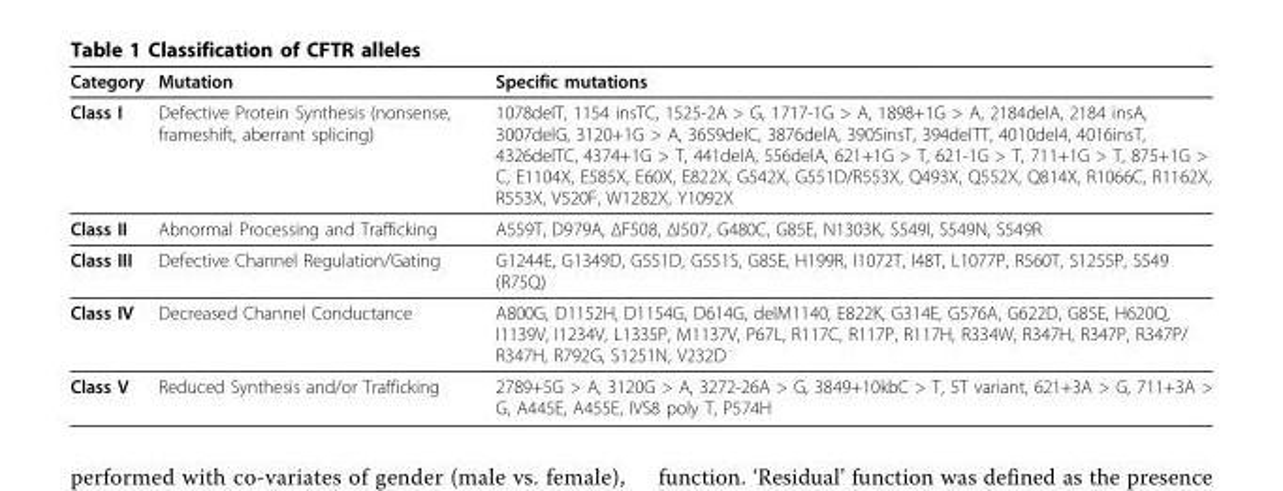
<table><thead><tr><td>Category</td><td>Mutation</td><td>Specific mutations</td></tr></thead><tbody><tr><td>Class I</td><td>Defective Protein Synthesis (nonsense, frameshift, aberrant splicing)</td><td>1078delT, 1154 insTC, 1525-2A &gt; G, 1717-1G &gt; A, 1898+1G &gt; A, 2184delA, 2184 insA, 3007delG, 3120+1G &gt; A, 3659delC, 3876delA, 3905insT, 394delTT, 4010del4, 4016insT, 4326delTC, 4374+1G &gt; T, 441delA, 556delA, 621+1G &gt; T, 621-1G &gt; T, 711+1G &gt; T, 875+1G &gt; C, E1104X, E585X, E60X, E822X, G542X, G551D/R553X, Q493X, Q552X, Q814X, R1066C, R1162X, R553X, V520F, W1282X, Y1092X</td></tr><tr><td>Class II</td><td>Abnormal Processing and Trafficking</td><td>A559T, D979A, ΔF508, ΔI507, G480C, G85E, N1303K, S549I, S549N, S549R</td></tr><tr><td>Class III</td><td>Defective Channel Regulation/Gating</td><td>G1244E, G1349D, G551D, G551S, G85E, H199R, I1072T, I48T, L1077P, R560T, S1255P, S549 (R75Q)</td></tr><tr><td>Class IV</td><td>Decreased Channel Conductance</td><td>A800G, D1152H, D1154G, D614G, delM1140, E822K, G314E, G576A, G622D, G85E, H620Q, I1139V, I1234V, L1335P, M1137V, P67L, R117C, R117P, R117H, R334W, R347H, R347P, R347P/ R347H, R792G, S1251N, V232D</td></tr><tr><td>Class V</td><td>Reduced Synthesis and/or Trafficking</td><td>2789+5G &gt; A, 3120G &gt; A, 3272-26A &gt; G, 3849+10kbC &gt; T, 5T variant, 621+3A &gt; G, 711+3A &gt; G, A445E, A455E, IVS8 poly T, P574H</td></tr></tbody></table>